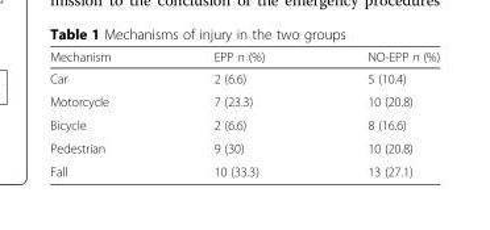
<table><thead><tr><td>Mechanism</td><td>EPP n (%)</td><td>NO-EPP n (%)</td></tr></thead><tbody><tr><td>Car</td><td>2 (6.6)</td><td>5 (10.4)</td></tr><tr><td>Motorcycle</td><td>7 (23.3)</td><td>10 (20.8)</td></tr><tr><td>Bicycle</td><td>2 (6.6)</td><td>8 (16.6)</td></tr><tr><td>Pedestrian</td><td>9 (30)</td><td>10 (20.8)</td></tr><tr><td>Fall</td><td>10 (33.3)</td><td>13 (27.1)</td></tr></tbody></table>